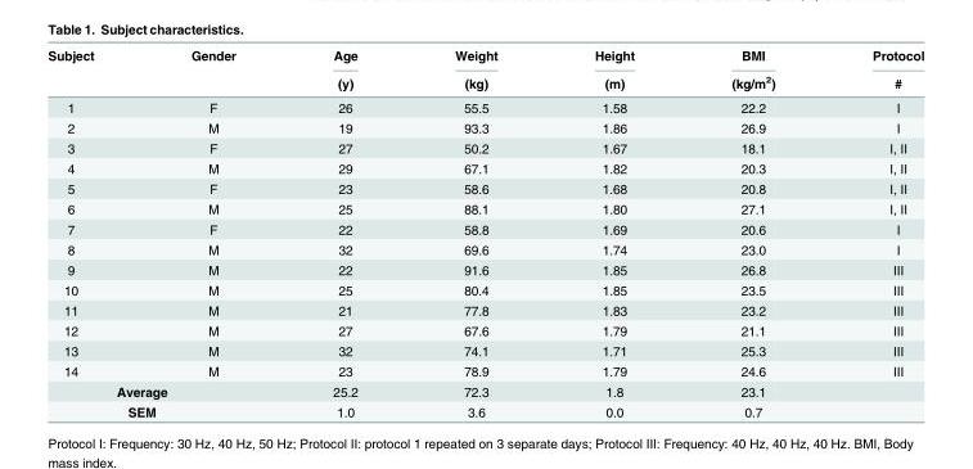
<table><thead><tr><td rowspan="2">Subject</td><td rowspan="2">Gender</td><td rowspan="2">Age (y)</td><td rowspan="2">Weight (kg)</td><td rowspan="2">Height (m)</td><td rowspan="2">BMI (kg/m<sup>2</sup>)</td><td rowspan="2">Protocol #</td></tr><tr></tr></thead><tbody><tr><td>1</td><td>F</td><td>26</td><td>55.5</td><td>1.58</td><td>22.2</td><td>I</td></tr><tr><td>2</td><td>M</td><td>19</td><td>93.3</td><td>1.86</td><td>26.9</td><td>I</td></tr><tr><td>3</td><td>F</td><td>27</td><td>50.2</td><td>1.67</td><td>18.1</td><td>I, II</td></tr><tr><td>4</td><td>M</td><td>29</td><td>67.1</td><td>1.82</td><td>20.3</td><td>I, II</td></tr><tr><td>5</td><td>F</td><td>23</td><td>58.6</td><td>1.68</td><td>20.8</td><td>I, II</td></tr><tr><td>6</td><td>M</td><td>25</td><td>88.1</td><td>1.80</td><td>27.1</td><td>I, II</td></tr><tr><td>7</td><td>F</td><td>22</td><td>58.8</td><td>1.69</td><td>20.6</td><td>I</td></tr><tr><td>8</td><td>M</td><td>32</td><td>69.6</td><td>1.74</td><td>23.0</td><td>I</td></tr><tr><td>9</td><td>M</td><td>22</td><td>91.6</td><td>1.85</td><td>26.8</td><td>III</td></tr><tr><td>10</td><td>M</td><td>25</td><td>80.4</td><td>1.85</td><td>23.5</td><td>III</td></tr><tr><td>11</td><td>M</td><td>21</td><td>77.8</td><td>1.83</td><td>23.2</td><td>III</td></tr><tr><td>12</td><td>M</td><td>27</td><td>67.6</td><td>1.79</td><td>21.1</td><td>III</td></tr><tr><td>13</td><td>M</td><td>32</td><td>74.1</td><td>1.71</td><td>25.3</td><td>III</td></tr><tr><td>14</td><td>M</td><td>23</td><td>78.9</td><td>1.79</td><td>24.6</td><td>III</td></tr><tr><td colspan="2">Average</td><td>25.2</td><td>72.3</td><td>1.8</td><td>23.1</td><td></td></tr><tr><td colspan="2">SEM</td><td>1.0</td><td>3.6</td><td>0.0</td><td>0.7</td><td></td></tr></tbody></table>